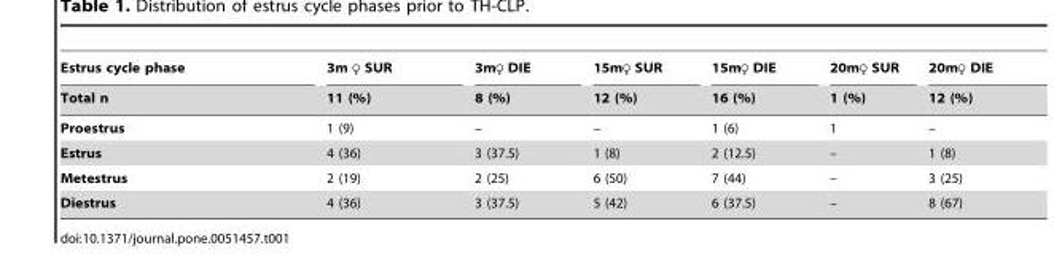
<table><thead><tr><td rowspan="2">Estrus cycle phase Total n</td><td rowspan="2">3m ♀ SUR 11 (%)</td><td rowspan="2">3m♀ DIE 8 (%)</td><td rowspan="2">15m♀ SUR 12 (%)</td><td rowspan="2">15m♀ DIE 16 (%)</td><td rowspan="2">20m♀ SUR 1 (%)</td><td rowspan="2">20m♀ DIE 12 (%)</td></tr><tr></tr></thead><tbody><tr><td>Proestrus</td><td>1 (9)</td><td>–</td><td>–</td><td>1 (6)</td><td>1</td><td>–</td></tr><tr><td>Estrus</td><td>4 (36)</td><td>3 (37.5)</td><td>1 (8)</td><td>2 (12.5)</td><td>–</td><td>1 (8)</td></tr><tr><td>Metestrus</td><td>2 (19)</td><td>2 (25)</td><td>6 (50)</td><td>7 (44)</td><td>–</td><td>3 (25)</td></tr><tr><td>Diestrus</td><td>4 (36)</td><td>3 (37.5)</td><td>5 (42)</td><td>6 (37.5)</td><td>–</td><td>8 (67)</td></tr></tbody></table>